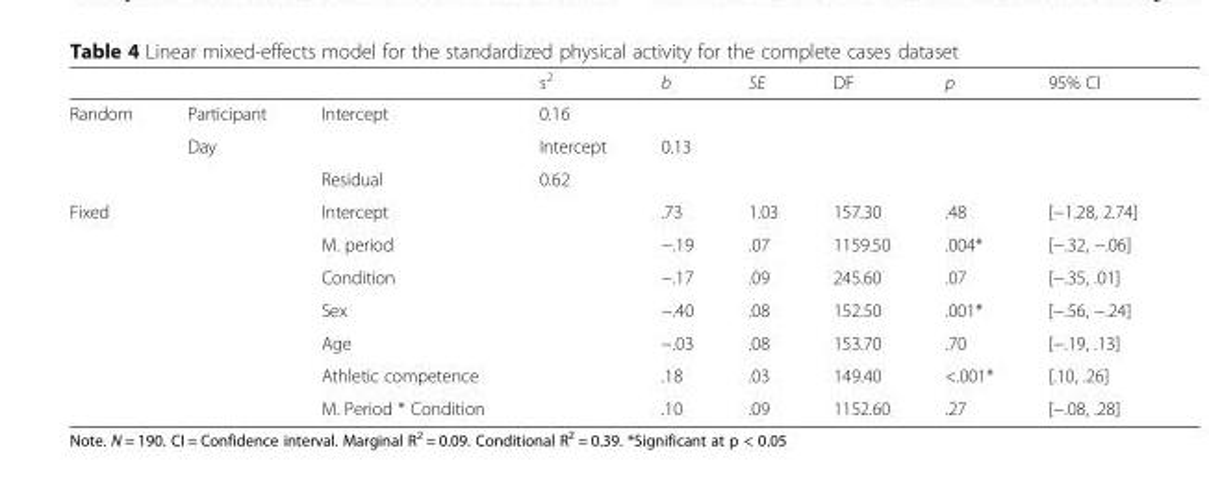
<table><thead><tr><td></td><td></td><td></td><td>s<sup>2</sup></td><td>b</td><td>SE</td><td>DF</td><td>p</td><td>95% CI</td></tr></thead><tbody><tr><td rowspan="3">Random</td><td>Participant</td><td>Intercept</td><td>0.16</td><td></td><td></td><td></td><td></td><td></td></tr><tr><td>Day</td><td></td><td>Intercept</td><td>0.13</td><td></td><td></td><td></td><td></td></tr><tr><td></td><td>Residual</td><td>0.62</td><td></td><td></td><td></td><td></td><td></td></tr><tr><td rowspan="7">Fixed</td><td></td><td>Intercept</td><td></td><td>.73</td><td>1.03</td><td>157.30</td><td>.48</td><td>[−1.28, 2.74]</td></tr><tr><td></td><td>M. period</td><td></td><td>−.19</td><td>.07</td><td>1159.50</td><td>.004*</td><td>[−.32, −.06]</td></tr><tr><td></td><td>Condition</td><td></td><td>−.17</td><td>.09</td><td>245.60</td><td>.07</td><td>[−.35, .01]</td></tr><tr><td></td><td>Sex</td><td></td><td>−.40</td><td>.08</td><td>152.50</td><td>.001*</td><td>[−.56, −.24]</td></tr><tr><td></td><td>Age</td><td></td><td>−.03</td><td>.08</td><td>153.70</td><td>.70</td><td>[−.19, .13]</td></tr><tr><td></td><td>Athletic competence</td><td></td><td>.18</td><td>.03</td><td>149.40</td><td>&lt;.001*</td><td>[.10, .26]</td></tr><tr><td></td><td>M. Period * Condition</td><td></td><td>.10</td><td>.09</td><td>1152.60</td><td>.27</td><td>[−.08, .28]</td></tr></tbody></table>